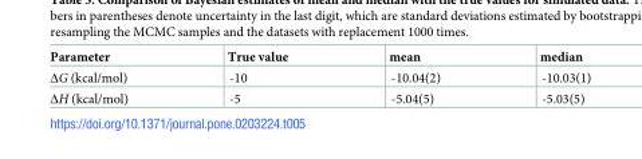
<table><thead><tr><td>Parameter</td><td>True value</td><td>mean</td><td>median</td></tr></thead><tbody><tr><td>ΔG (kcal/mol)</td><td>-10</td><td>-10.04(2)</td><td>-10.03(1)</td></tr><tr><td>ΔH (kcal/mol)</td><td>-5</td><td>-5.04(5)</td><td>-5.03(5)</td></tr></tbody></table>